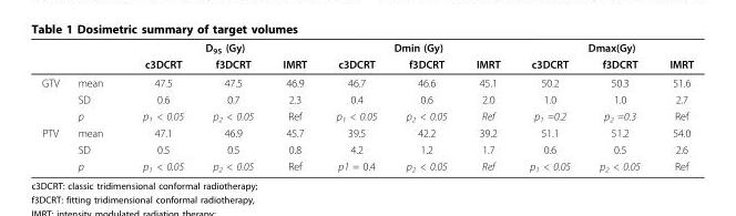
<table><thead><tr><td rowspan="2"></td><td rowspan="2"></td><td colspan="3">D<sub>95</sub> (Gy)</td><td colspan="3">Dmin (Gy)</td><td colspan="3">Dmax(Gy)</td></tr><tr><td>c3DCRT</td><td>f3DCRT</td><td>IMRT</td><td>c3DCRT</td><td>f3DCRT</td><td>IMRT</td><td>c3DCRT</td><td>f3DCRT</td><td>IMRT</td></tr></thead><tbody><tr><td rowspan="3">GTV</td><td>mean</td><td>47.5</td><td>47.5</td><td>46.9</td><td>46.7</td><td>46.6</td><td>45.1</td><td>50.2</td><td>50.3</td><td>51.6</td></tr><tr><td>SD</td><td>0.6</td><td>0.7</td><td>2.3</td><td>0.4</td><td>0.6</td><td>2.0</td><td>1.0</td><td>1.0</td><td>2.7</td></tr><tr><td>p</td><td>p<sub>1</sub> &lt; 0.05</td><td>p<sub>2</sub> &lt; 0.05</td><td>Ref</td><td>p<sub>1</sub> &lt; 0.05</td><td>p<sub>2</sub> &lt; 0.05</td><td>Ref</td><td>p<sub>1</sub> =0.2</td><td>p<sub>2</sub> =0.3</td><td>Ref</td></tr><tr><td rowspan="3">PTV</td><td>mean</td><td>47.1</td><td>46.9</td><td>45.7</td><td>39.5</td><td>42.2</td><td>39.2</td><td>51.1</td><td>51.2</td><td>54.0</td></tr><tr><td>SD</td><td>0.5</td><td>0.5</td><td>0.8</td><td>4.2</td><td>1.2</td><td>1.7</td><td>0.6</td><td>0.5</td><td>2.6</td></tr><tr><td>p</td><td>p<sub>1</sub> &lt; 0.05</td><td>p<sub>2</sub> &lt; 0.05</td><td>Ref</td><td>p1 = 0.4</td><td>p<sub>2</sub> &lt; 0.05</td><td>Ref</td><td>p<sub>1</sub> &lt; 0.05</td><td>p<sub>2</sub> &lt; 0.05</td><td>Ref</td></tr></tbody></table>